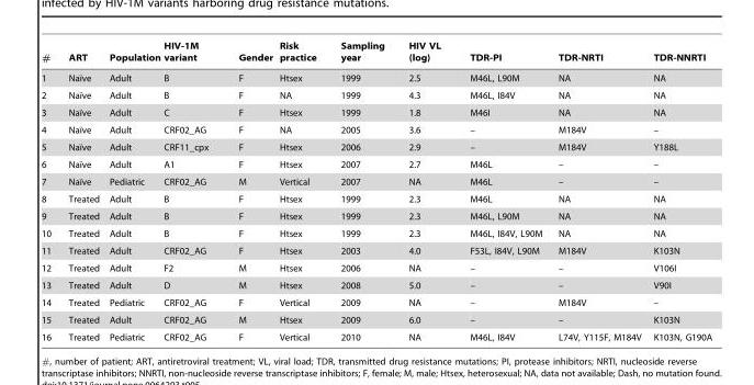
<table><thead><tr><td>#</td><td>ART</td><td>Population</td><td>HIV-1M variant</td><td>Gender</td><td>Risk practice</td><td>Sampling year</td><td>HIV VL (log)</td><td>TDR-PI</td><td>TDR-NRTI</td><td>TDR-NNRTI</td></tr></thead><tbody><tr><td>1</td><td>Naı¨ve</td><td>Adult</td><td>B</td><td>F</td><td>Htsex</td><td>1999</td><td>2.5</td><td>M46L, L90M</td><td>NA</td><td>NA</td></tr><tr><td>2</td><td>Naı¨ve</td><td>Adult</td><td>B</td><td>F</td><td>NA</td><td>1999</td><td>4.3</td><td>M46L, I84V</td><td>NA</td><td>NA</td></tr><tr><td>3</td><td>Naı¨ve</td><td>Adult</td><td>C</td><td>F</td><td>Htsex</td><td>1999</td><td>1.8</td><td>M46I</td><td>NA</td><td>NA</td></tr><tr><td>4</td><td>Naı¨ve</td><td>Adult</td><td>CRF02_AG</td><td>F</td><td>NA</td><td>2005</td><td>3.6</td><td>–</td><td>M184V</td><td>–</td></tr><tr><td>5</td><td>Naı¨ve</td><td>Adult</td><td>CRF11_cpx</td><td>F</td><td>Htsex</td><td>2006</td><td>2.9</td><td>–</td><td>M184V</td><td>Y188L</td></tr><tr><td>6</td><td>Naı¨ve</td><td>Adult</td><td>A1</td><td>F</td><td>Htsex</td><td>2007</td><td>2.7</td><td>M46L</td><td>–</td><td>–</td></tr><tr><td>7</td><td>Naı¨ve</td><td>Pediatric</td><td>CRF02_AG</td><td>M</td><td>Vertical</td><td>2007</td><td>NA</td><td>M46L</td><td>–</td><td>–</td></tr><tr><td>8</td><td>Treated</td><td>Adult</td><td>B</td><td>F</td><td>Htsex</td><td>1999</td><td>2.3</td><td>M46L</td><td>NA</td><td>NA</td></tr><tr><td>9</td><td>Treated</td><td>Adult</td><td>B</td><td>F</td><td>Htsex</td><td>1999</td><td>2.3</td><td>M46L, L90M</td><td>NA</td><td>NA</td></tr><tr><td>10</td><td>Treated</td><td>Adult</td><td>B</td><td>F</td><td>Htsex</td><td>1999</td><td>2.3</td><td>M46L, I84V, L90M</td><td>NA</td><td>NA</td></tr><tr><td>11</td><td>Treated</td><td>Adult</td><td>CRF02_AG</td><td>F</td><td>Htsex</td><td>2003</td><td>4.0</td><td>F53L, I84V, L90M</td><td>M184V</td><td>K103N</td></tr><tr><td>12</td><td>Treated</td><td>Adult</td><td>F2</td><td>M</td><td>Htsex</td><td>2006</td><td>NA</td><td>–</td><td>–</td><td>V106I</td></tr><tr><td>13</td><td>Treated</td><td>Adult</td><td>D</td><td>M</td><td>Htsex</td><td>2008</td><td>5.0</td><td>–</td><td>–</td><td>V90I</td></tr><tr><td>14</td><td>Treated</td><td>Pediatric</td><td>CRF02_AG</td><td>F</td><td>Vertical</td><td>2009</td><td>NA</td><td>–</td><td>M184V</td><td>–</td></tr><tr><td>15</td><td>Treated</td><td>Adult</td><td>CRF02_AG</td><td>M</td><td>Htsex</td><td>2009</td><td>6.0</td><td>–</td><td>–</td><td>K103N</td></tr><tr><td>16</td><td>Treated</td><td>Pediatric</td><td>CRF02_AG</td><td>F</td><td>Vertical</td><td>2010</td><td>NA</td><td>M46L, I84V</td><td>L74V, Y115F, M184V</td><td>K103N, G190A</td></tr></tbody></table>